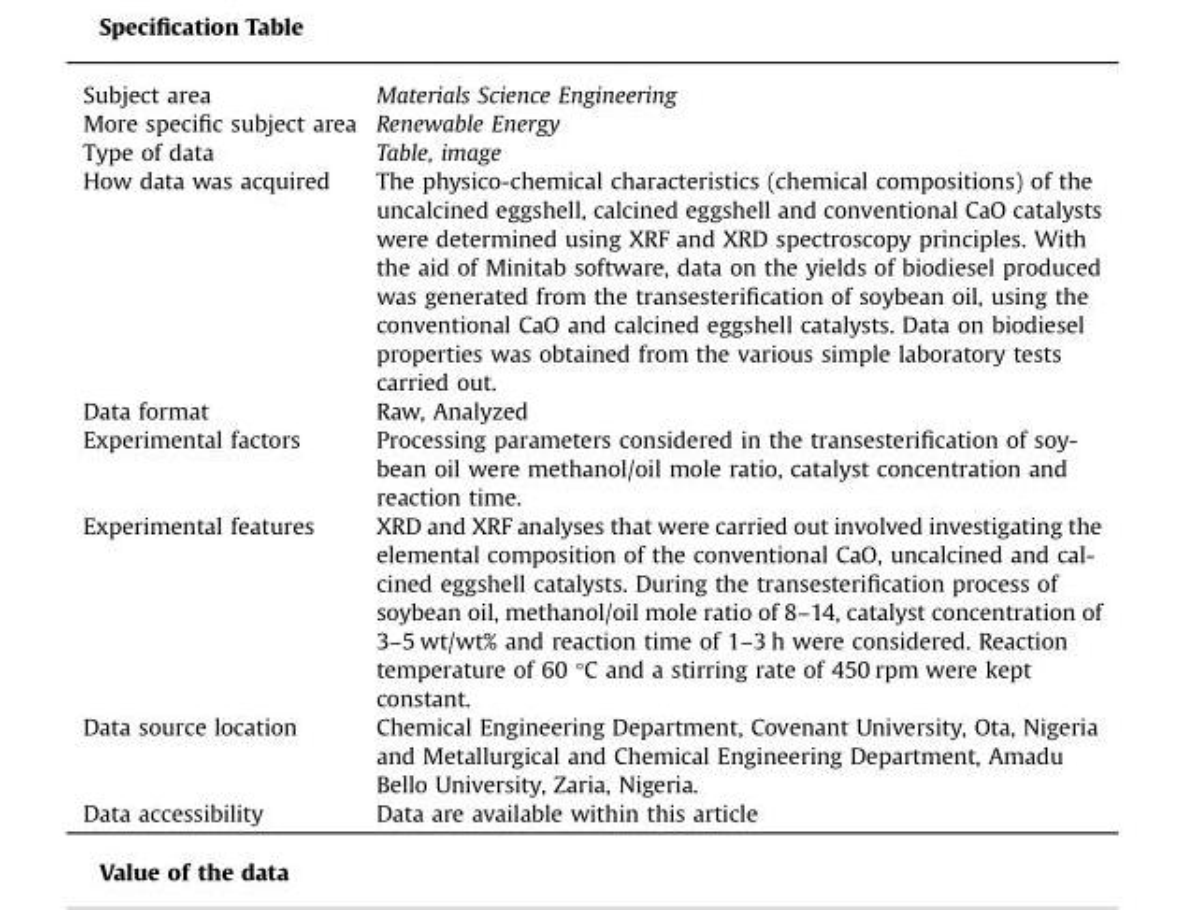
<table><thead><tr><td>Subject area</td><td>Materials Science Engineering</td></tr></thead><tbody><tr><td>More specific subject area</td><td>Renewable Energy</td></tr><tr><td>Type of data</td><td>Table, image</td></tr><tr><td>How data was acquired</td><td>The physico-chemical characteristics (chemical compositions) of the uncalcined eggshell, calcined eggshell and conventional CaO catalysts were determined using XRF and XRD spectroscopy principles. With the aid of Minitab software, data on the yields of biodiesel produced was generated from the transesterification of soybean oil, using the conventional CaO and calcined eggshell catalysts. Data on biodiesel properties was obtained from the various simple laboratory tests carried out.</td></tr><tr><td>Data format</td><td>Raw, Analyzed</td></tr><tr><td>Experimental factors</td><td>Processing parameters considered in the transesterification of soy- bean oil were methanol/oil mole ratio, catalyst concentration and reaction time.</td></tr><tr><td>Experimental features</td><td>XRD and XRF analyses that were carried out involved investigating the elemental composition of the conventional CaO, uncalcined and cal- cined eggshell catalysts. During the transesterification process of soybean oil, methanol/oil mole ratio of 8–14, catalyst concentration of 3–5 wt/wt% and reaction time of 1–3 h were considered. Reaction temperature of 60 °C and a stirring rate of 450 rpm were kept constant.</td></tr><tr><td>Data source location</td><td>Chemical Engineering Department, Covenant University, Ota, Nigeria and Metallurgical and Chemical Engineering Department, Amadu Bello University, Zaria, Nigeria.</td></tr><tr><td>Data accessibility</td><td>Data are available within this article</td></tr></tbody></table>